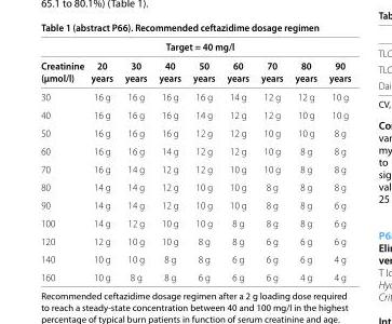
<table><thead><tr><td rowspan="2">Creatinine (μmol/l)</td><td colspan="8">Target = 40 mg/l</td></tr><tr><td>20 years</td><td>30 years</td><td>40 years</td><td>50 years</td><td>60 years</td><td>70 years</td><td>80 years</td><td>90 years</td></tr></thead><tbody><tr><td>30</td><td>16 g</td><td>16 g</td><td>16 g</td><td>16 g</td><td>14 g</td><td>12 g</td><td>12 g</td><td>10 g</td></tr><tr><td>40</td><td>16 g</td><td>16 g</td><td>16 g</td><td>14 g</td><td>12 g</td><td>12 g</td><td>10 g</td><td>10 g</td></tr><tr><td>50</td><td>16 g</td><td>16 g</td><td>16 g</td><td>12 g</td><td>12 g</td><td>10 g</td><td>10 g</td><td>8 g</td></tr><tr><td>60</td><td>16 g</td><td>16 g</td><td>14 g</td><td>12 g</td><td>12 g</td><td>10 g</td><td>8 g</td><td>8 g</td></tr><tr><td>70</td><td>16 g</td><td>14 g</td><td>12 g</td><td>12 g</td><td>10 g</td><td>10 g</td><td>8 g</td><td>8 g</td></tr><tr><td>80</td><td>14 g</td><td>14 g</td><td>12 g</td><td>10 g</td><td>10 g</td><td>8 g</td><td>8 g</td><td>8 g</td></tr><tr><td>90</td><td>14 g</td><td>14 g</td><td>12 g</td><td>10 g</td><td>10 g</td><td>8 g</td><td>8 g</td><td>6 g</td></tr><tr><td>100</td><td>14 g</td><td>12 g</td><td>10 g</td><td>10 g</td><td>8 g</td><td>8 g</td><td>8 g</td><td>6 g</td></tr><tr><td>120</td><td>12 g</td><td>10 g</td><td>10 g</td><td>8 g</td><td>8 g</td><td>6 g</td><td>6 g</td><td>6 g</td></tr><tr><td>140</td><td>10 g</td><td>10 g</td><td>8 g</td><td>8 g</td><td>6 g</td><td>6 g</td><td>6 g</td><td>4 g</td></tr><tr><td>160</td><td>10 g</td><td>8 g</td><td>8 g</td><td>6 g</td><td>6 g</td><td>6 g</td><td>4 g</td><td>4 g</td></tr></tbody></table>